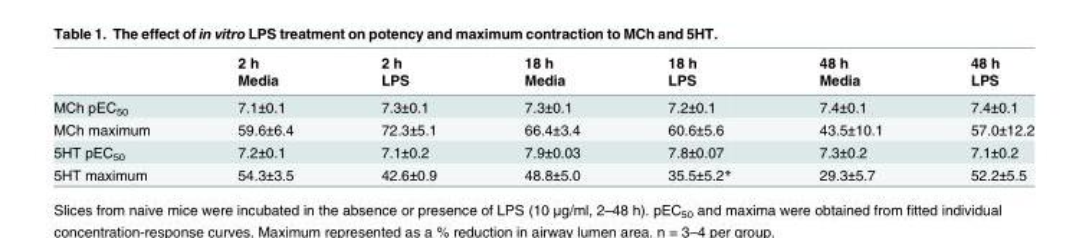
<table><thead><tr><td rowspan="2"></td><td rowspan="2">2 h Media</td><td rowspan="2">2 h LPS</td><td rowspan="2">18 h Media</td><td rowspan="2">18 h LPS</td><td rowspan="2">48 h Media</td><td rowspan="2">48 h LPS</td></tr><tr></tr></thead><tbody><tr><td>MCh pEC<sub>50</sub></td><td>7.1±0.1</td><td>7.3±0.1</td><td>7.3±0.1</td><td>7.2±0.1</td><td>7.4±0.1</td><td>7.4±0.1</td></tr><tr><td>MCh maximum</td><td>59.6±6.4</td><td>72.3±5.1</td><td>66.4±3.4</td><td>60.6±5.6</td><td>43.5±10.1</td><td>57.0±12.2</td></tr><tr><td>5HT pEC<sub>50</sub></td><td>7.2±0.1</td><td>7.1±0.2</td><td>7.9±0.03</td><td>7.8±0.07</td><td>7.3±0.2</td><td>7.1±0.2</td></tr><tr><td>5HT maximum</td><td>54.3±3.5</td><td>42.6±0.9</td><td>48.8±5.0</td><td>35.5±5.2*</td><td>29.3±5.7</td><td>52.2±5.5</td></tr></tbody></table>